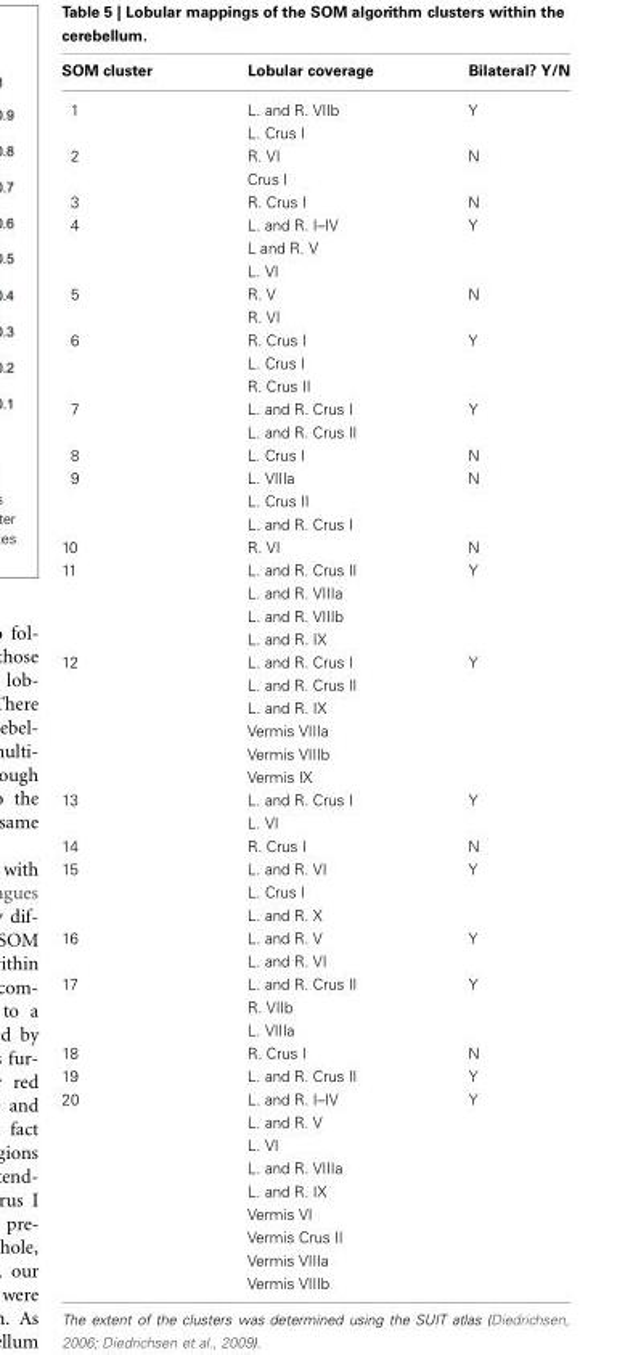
<table><thead><tr><td>SOM cluster</td><td>Lobular coverage</td><td>Bilateral? Y/N</td></tr></thead><tbody><tr><td rowspan="2">1</td><td>L. and R. VIIb</td><td>Y</td></tr><tr><td>L. Crus I</td><td></td></tr><tr><td rowspan="2">2</td><td>R. VI</td><td>N</td></tr><tr><td>Crus I</td><td></td></tr><tr><td>3</td><td>R. Crus I</td><td>N</td></tr><tr><td rowspan="3">4</td><td>L. and R. I–IV</td><td>Y</td></tr><tr><td>L and R. V</td><td></td></tr><tr><td>L. VI</td><td></td></tr><tr><td rowspan="2">5</td><td>R. V</td><td>N</td></tr><tr><td>R. VI</td><td></td></tr><tr><td rowspan="3">6</td><td>R. Crus I</td><td>Y</td></tr><tr><td>L. Crus I</td><td></td></tr><tr><td>R. Crus II</td><td></td></tr><tr><td rowspan="2">7</td><td>L. and R. Crus I</td><td>Y</td></tr><tr><td>L. and R. Crus II</td><td></td></tr><tr><td>8</td><td>L. Crus I</td><td>N</td></tr><tr><td rowspan="3">9</td><td>L. VIIIa</td><td>N</td></tr><tr><td>L. Crus II</td><td></td></tr><tr><td>L. and R. Crus I</td><td></td></tr><tr><td>10</td><td>R. VI</td><td>N</td></tr><tr><td rowspan="4">11</td><td>L. and R. Crus II</td><td>Y</td></tr><tr><td>L. and R. VIIIa</td><td></td></tr><tr><td>L. and R. VIIIb</td><td></td></tr><tr><td>L. and R. IX</td><td></td></tr><tr><td rowspan="6">12</td><td>L. and R. Crus I</td><td>Y</td></tr><tr><td>L. and R. Crus II</td><td></td></tr><tr><td>L. and R. IX</td><td></td></tr><tr><td>Vermis VIIIa</td><td></td></tr><tr><td>Vermis VIIIb</td><td></td></tr><tr><td>Vermis IX</td><td></td></tr><tr><td rowspan="2">13</td><td>L. and R. Crus I</td><td>Y</td></tr><tr><td>L. VI</td><td></td></tr><tr><td>14</td><td>R. Crus I</td><td>N</td></tr><tr><td rowspan="3">15</td><td>L. and R. VI</td><td>Y</td></tr><tr><td>L. Crus I</td><td></td></tr><tr><td>L. and R. X</td><td></td></tr><tr><td rowspan="2">16</td><td>L. and R. V</td><td>Y</td></tr><tr><td>L. and R. VI</td><td></td></tr><tr><td rowspan="3">17</td><td>L. and R. Crus II</td><td>Y</td></tr><tr><td>R. VIIb</td><td></td></tr><tr><td>L. VIIIa</td><td></td></tr><tr><td>18</td><td>R. Crus I</td><td>N</td></tr><tr><td>19</td><td>L. and R. Crus II</td><td>Y</td></tr><tr><td rowspan="9">20</td><td>L. and R. I–IV</td><td>Y</td></tr><tr><td>L. and R. V</td><td></td></tr><tr><td>L. VI</td><td></td></tr><tr><td>L. and R. VIIIa</td><td></td></tr><tr><td>L. and R. IX</td><td></td></tr><tr><td>Vermis VI</td><td></td></tr><tr><td>Vermis Crus II</td><td></td></tr><tr><td>Vermis VIIIa</td><td></td></tr><tr><td>Vermis VIIIb</td><td></td></tr></tbody></table>